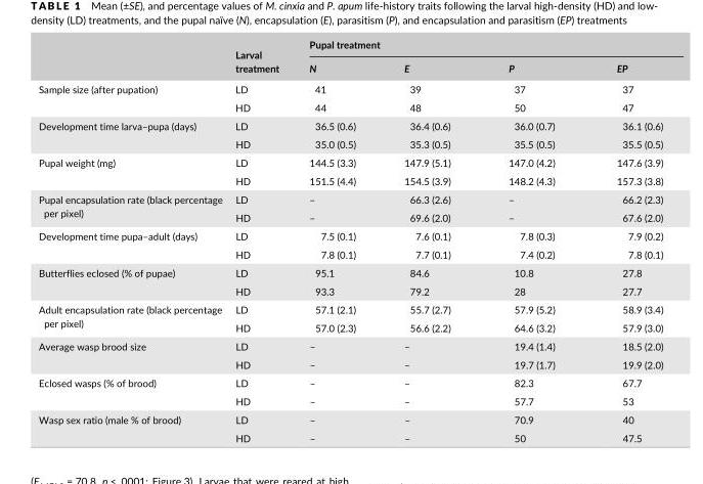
<table><thead><tr><td rowspan="2"></td><td rowspan="2">Larval treatment</td><td colspan="4">Pupal treatment</td></tr><tr><td>N</td><td>E</td><td>P</td><td>EP</td></tr></thead><tbody><tr><td rowspan="2">Sample size (after pupation)</td><td>LD</td><td>41</td><td>39</td><td>37</td><td>37</td></tr><tr><td>HD</td><td>44</td><td>48</td><td>50</td><td>47</td></tr><tr><td rowspan="2">Development time larva–pupa (days)</td><td>LD</td><td>36.5 (0.6)</td><td>36.4 (0.6)</td><td>36.0 (0.7)</td><td>36.1 (0.6)</td></tr><tr><td>HD</td><td>35.0 (0.5)</td><td>35.3 (0.5)</td><td>35.5 (0.5)</td><td>35.5 (0.5)</td></tr><tr><td rowspan="2">Pupal weight (mg)</td><td>LD</td><td>144.5 (3.3)</td><td>147.9 (5.1)</td><td>147.0 (4.2)</td><td>147.6 (3.9)</td></tr><tr><td>HD</td><td>151.5 (4.4)</td><td>154.5 (3.9)</td><td>148.2 (4.3)</td><td>157.3 (3.8)</td></tr><tr><td rowspan="2">Pupal encapsulation rate (black percentage per pixel)</td><td>LD</td><td>–</td><td>66.3 (2.6)</td><td>–</td><td>66.2 (2.3)</td></tr><tr><td>HD</td><td>–</td><td>69.6 (2.0)</td><td>–</td><td>67.6 (2.0)</td></tr><tr><td rowspan="2">Development time pupa–adult (days)</td><td>LD</td><td>7.5 (0.1)</td><td>7.6 (0.1)</td><td>7.8 (0.3)</td><td>7.9 (0.2)</td></tr><tr><td>HD</td><td>7.8 (0.1)</td><td>7.7 (0.1)</td><td>7.4 (0.2)</td><td>7.8 (0.1)</td></tr><tr><td rowspan="2">Butterflies eclosed (% of pupae)</td><td>LD</td><td>95.1</td><td>84.6</td><td>10.8</td><td>27.8</td></tr><tr><td>HD</td><td>93.3</td><td>79.2</td><td>28</td><td>27.7</td></tr><tr><td rowspan="2">Adult encapsulation rate (black percentage per pixel)</td><td>LD</td><td>57.1 (2.1)</td><td>55.7 (2.7)</td><td>57.9 (5.2)</td><td>58.9 (3.4)</td></tr><tr><td>HD</td><td>57.0 (2.3)</td><td>56.6 (2.2)</td><td>64.6 (3.2)</td><td>57.9 (3.0)</td></tr><tr><td rowspan="2">Average wasp brood size</td><td>LD</td><td>–</td><td>–</td><td>19.4 (1.4)</td><td>18.5 (2.0)</td></tr><tr><td>HD</td><td>–</td><td>–</td><td>19.7 (1.7)</td><td>19.9 (2.0)</td></tr><tr><td rowspan="2">Eclosed wasps (% of brood)</td><td>LD</td><td>–</td><td>–</td><td>82.3</td><td>67.7</td></tr><tr><td>HD</td><td>–</td><td>–</td><td>57.7</td><td>53</td></tr><tr><td rowspan="2">Wasp sex ratio (male % of brood)</td><td>LD</td><td>–</td><td>–</td><td>70.9</td><td>40</td></tr><tr><td>HD</td><td>–</td><td>–</td><td>50</td><td>47.5</td></tr></tbody></table>